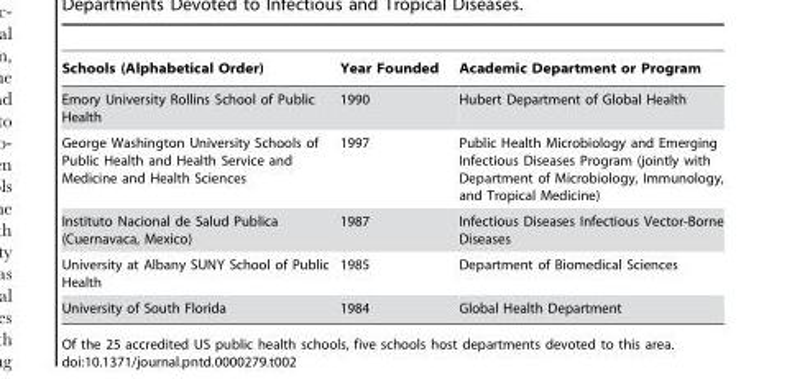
<table><thead><tr><td>Schools (Alphabetical Order)</td><td>Year Founded</td><td>Academic Department or Program</td></tr></thead><tbody><tr><td>Emory University Rollins School of Public Health</td><td>1990</td><td>Hubert Department of Global Health</td></tr><tr><td>George Washington University Schools of Public Health and Health Service and Medicine and Health Sciences</td><td>1997</td><td>Public Health Microbiology and Emerging Infectious Diseases Program (jointly with Department of Microbiology, Immunology, and Tropical Medicine)</td></tr><tr><td>Instituto Nacional de Salud Publica (Cuernavaca, Mexico)</td><td>1987</td><td>Infectious Diseases Infectious Vector-Borne Diseases</td></tr><tr><td>University at Albany SUNY School of Public Health</td><td>1985</td><td>Department of Biomedical Sciences</td></tr><tr><td>University of South Florida</td><td>1984</td><td>Global Health Department</td></tr></tbody></table>